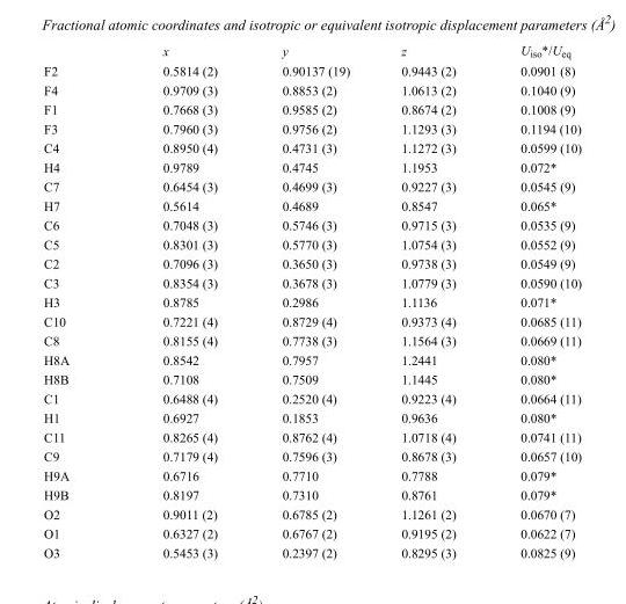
<table><thead><tr><td></td><td>x</td><td>y</td><td>z</td><td>U<sub>iso</sub>*/U<sub>eq</sub></td></tr></thead><tbody><tr><td>F2</td><td>0.5814 (2)</td><td>0.90137 (19)</td><td>0.9443 (2)</td><td>0.0901 (8)</td></tr><tr><td>F4</td><td>0.9709 (3)</td><td>0.8853 (2)</td><td>1.0613 (2)</td><td>0.1040 (9)</td></tr><tr><td>F1</td><td>0.7668 (3)</td><td>0.9585 (2)</td><td>0.8674 (2)</td><td>0.1008 (9)</td></tr><tr><td>F3</td><td>0.7960 (3)</td><td>0.9756 (2)</td><td>1.1293 (3)</td><td>0.1194 (10)</td></tr><tr><td>C4</td><td>0.8950 (4)</td><td>0.4731 (3)</td><td>1.1272 (3)</td><td>0.0599 (10)</td></tr><tr><td>H4</td><td>0.9789</td><td>0.4745</td><td>1.1953</td><td>0.072*</td></tr><tr><td>C7</td><td>0.6454 (3)</td><td>0.4699 (3)</td><td>0.9227 (3)</td><td>0.0545 (9)</td></tr><tr><td>H7</td><td>0.5614</td><td>0.4689</td><td>0.8547</td><td>0.065*</td></tr><tr><td>C6</td><td>0.7048 (3)</td><td>0.5746 (3)</td><td>0.9715 (3)</td><td>0.0535 (9)</td></tr><tr><td>C5</td><td>0.8301 (3)</td><td>0.5770 (3)</td><td>1.0754 (3)</td><td>0.0552 (9)</td></tr><tr><td>C2</td><td>0.7096 (3)</td><td>0.3650 (3)</td><td>0.9738 (3)</td><td>0.0549 (9)</td></tr><tr><td>C3</td><td>0.8354 (3)</td><td>0.3678 (3)</td><td>1.0779 (3)</td><td>0.0590 (10)</td></tr><tr><td>H3</td><td>0.8785</td><td>0.2986</td><td>1.1136</td><td>0.071*</td></tr><tr><td>C10</td><td>0.7221 (4)</td><td>0.8729 (4)</td><td>0.9373 (4)</td><td>0.0685 (11)</td></tr><tr><td>C8</td><td>0.8155 (4)</td><td>0.7738 (3)</td><td>1.1564 (3)</td><td>0.0669 (11)</td></tr><tr><td>H8A</td><td>0.8542</td><td>0.7957</td><td>1.2441</td><td>0.080*</td></tr><tr><td>H8B</td><td>0.7108</td><td>0.7509</td><td>1.1445</td><td>0.080*</td></tr><tr><td>C1</td><td>0.6488 (4)</td><td>0.2520 (4)</td><td>0.9223 (4)</td><td>0.0664 (11)</td></tr><tr><td>H1</td><td>0.6927</td><td>0.1853</td><td>0.9636</td><td>0.080*</td></tr><tr><td>C11</td><td>0.8265 (4)</td><td>0.8762 (4)</td><td>1.0718 (4)</td><td>0.0741 (11)</td></tr><tr><td>C9</td><td>0.7179 (4)</td><td>0.7596 (3)</td><td>0.8678 (3)</td><td>0.0657 (10)</td></tr><tr><td>H9A</td><td>0.6716</td><td>0.7710</td><td>0.7788</td><td>0.079*</td></tr><tr><td>H9B</td><td>0.8197</td><td>0.7310</td><td>0.8761</td><td>0.079*</td></tr><tr><td>O2</td><td>0.9011 (2)</td><td>0.6785 (2)</td><td>1.1261 (2)</td><td>0.0670 (7)</td></tr><tr><td>O1</td><td>0.6327 (2)</td><td>0.6767 (2)</td><td>0.9195 (2)</td><td>0.0622 (7)</td></tr><tr><td>O3</td><td>0.5453 (3)</td><td>0.2397 (2)</td><td>0.8295 (3)</td><td>0.0825 (9)</td></tr></tbody></table>